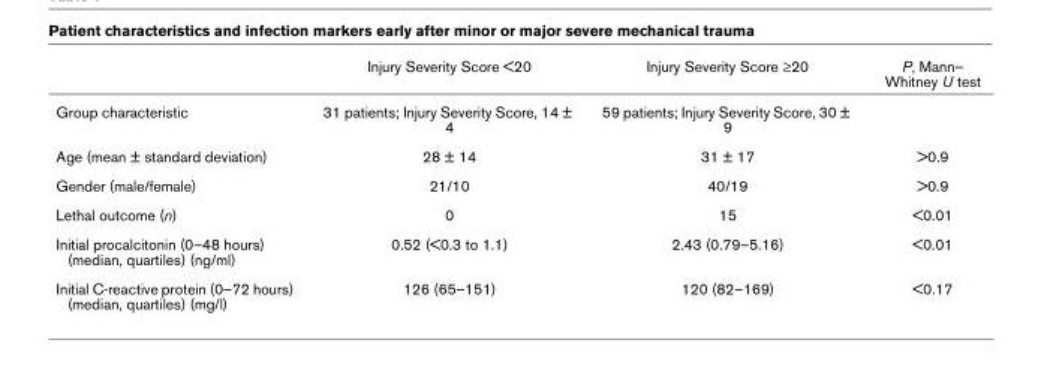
<table><thead><tr><td></td><td>Injury Severity Score &lt;20</td><td>Injury Severity Score ≥20</td><td>P, Mann– Whitney U test</td></tr></thead><tbody><tr><td>Group characteristic</td><td>31 patients; Injury Severity Score, 14 ± 4</td><td>59 patients; Injury Severity Score, 30 ± 9</td><td></td></tr><tr><td>Age (mean ± standard deviation)</td><td>28 ± 14</td><td>31 ± 17</td><td>&gt;0.9</td></tr><tr><td>Gender (male/female)</td><td>21/10</td><td>40/19</td><td>&gt;0.9</td></tr><tr><td>Lethal outcome (n)</td><td>0</td><td>15</td><td>&lt;0.01</td></tr><tr><td>Initial procalcitonin (0–48 hours) (median, quartiles) (ng/ml)</td><td>0.52 (&lt;0.3 to 1.1)</td><td>2.43 (0.79–5.16)</td><td>&lt;0.01</td></tr><tr><td>Initial C-reactive protein (0–72 hours) (median, quartiles) (mg/l)</td><td>126 (65–151)</td><td>120 (82–169)</td><td>&lt;0.17</td></tr></tbody></table>